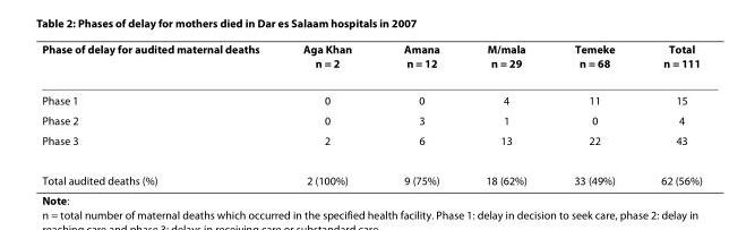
<table><thead><tr><td>Phase of delay for audited maternal deaths</td><td>Aga Khan n = 2</td><td>Amana n = 12</td><td>M/mala n = 29</td><td>Temeke n = 68</td><td>Total n = 111</td></tr></thead><tbody><tr><td>Phase 1</td><td>0</td><td>0</td><td>4</td><td>11</td><td>15</td></tr><tr><td>Phase 2</td><td>0</td><td>3</td><td>1</td><td>0</td><td>4</td></tr><tr><td>Phase 3</td><td>2</td><td>6</td><td>13</td><td>22</td><td>43</td></tr><tr><td>Total audited deaths (%)</td><td>2 (100%)</td><td>9 (75%)</td><td>18 (62%)</td><td>33 (49%)</td><td>62 (56%)</td></tr></tbody></table>